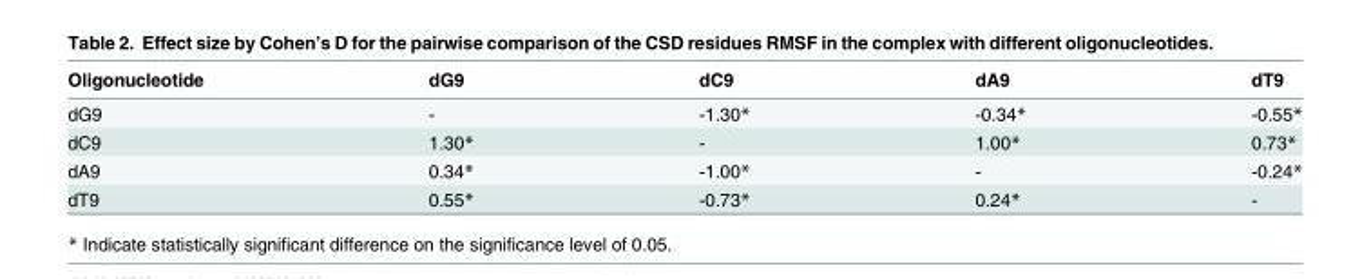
<table><thead><tr><td>Oligonucleotide</td><td>dG9</td><td>dC9</td><td>dA9</td><td>dT9</td></tr></thead><tbody><tr><td>dG9</td><td>-</td><td>-1.30*</td><td>-0.34*</td><td>-0.55*</td></tr><tr><td>dC9</td><td>1.30*</td><td>-</td><td>1.00*</td><td>0.73*</td></tr><tr><td>dA9</td><td>0.34*</td><td>-1.00*</td><td>-</td><td>-0.24*</td></tr><tr><td>dT9</td><td>0.55*</td><td>-0.73*</td><td>0.24*</td><td>-</td></tr></tbody></table>